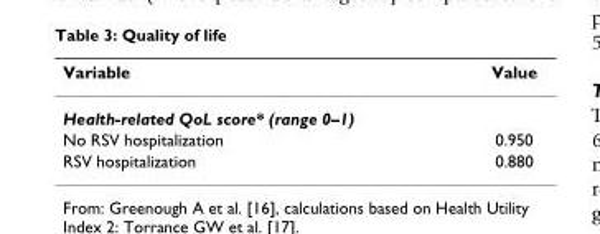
<table><thead><tr><td>Variable</td><td>Value</td></tr></thead><tbody><tr><td colspan="2">Health-related QoL score* (range 0–1)</td></tr><tr><td>No RSV hospitalization</td><td>0.950</td></tr><tr><td>RSV hospitalization</td><td>0.880</td></tr></tbody></table>